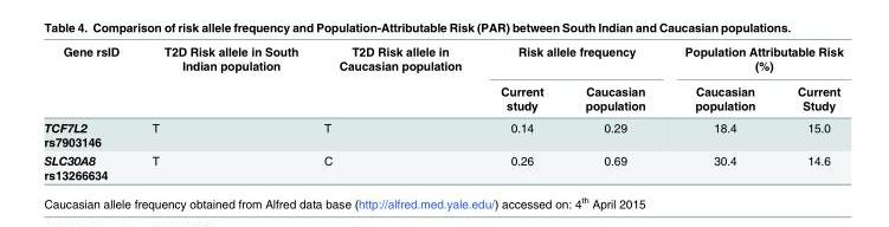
<table><thead><tr><td rowspan="2">Gene rsID</td><td rowspan="2">T2D Risk allele in South Indian population</td><td rowspan="2">T2D Risk allele in Caucasian population</td><td colspan="2">Risk allele frequency</td><td colspan="2">Population Attributable Risk (%)</td></tr><tr><td>Current study</td><td>Caucasian population</td><td>Caucasian population</td><td>Current Study</td></tr></thead><tbody><tr><td>TCF7L2 rs7903146</td><td>T</td><td>T</td><td>0.14</td><td>0.29</td><td>18.4</td><td>15.0</td></tr><tr><td>SLC30A8 rs13266634</td><td>T</td><td>C</td><td>0.26</td><td>0.69</td><td>30.4</td><td>14.6</td></tr></tbody></table>